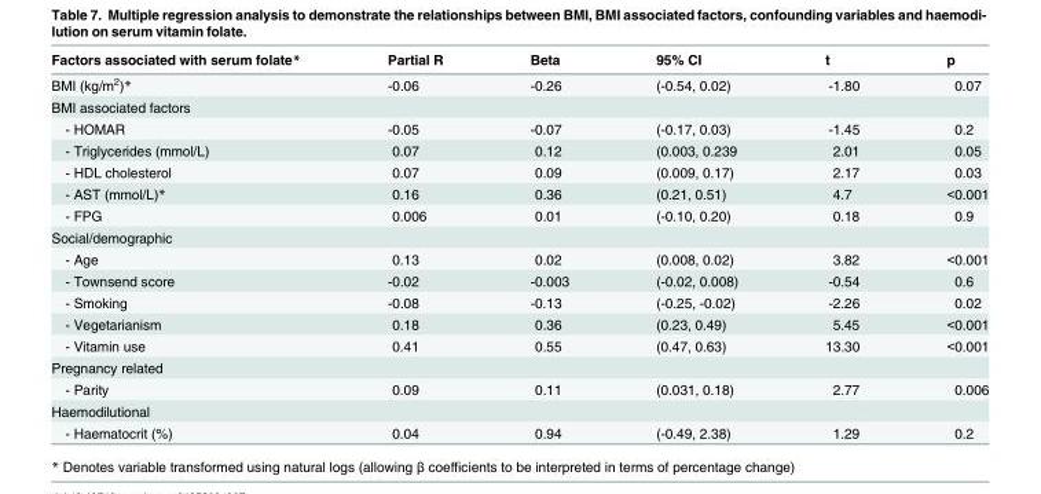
<table><thead><tr><td>Factors associated with serum folate*</td><td>Partial R</td><td>Beta</td><td>95% CI</td><td>t</td><td>p</td></tr></thead><tbody><tr><td>BMI (kg/m<sup>2</sup>)*</td><td>-0.06</td><td>-0.26</td><td>(-0.54, 0.02)</td><td>-1.80</td><td>0.07</td></tr><tr><td colspan="6">BMI associated factors</td></tr><tr><td>- HOMAR</td><td>-0.05</td><td>-0.07</td><td>(-0.17, 0.03)</td><td>-1.45</td><td>0.2</td></tr><tr><td>- Triglycerides (mmol/L)</td><td>0.07</td><td>0.12</td><td>(0.003, 0.239</td><td>2.01</td><td>0.05</td></tr><tr><td>- HDL cholesterol</td><td>0.07</td><td>0.09</td><td>(0.009, 0.17)</td><td>2.17</td><td>0.03</td></tr><tr><td>- AST (mmol/L)*</td><td>0.16</td><td>0.36</td><td>(0.21, 0.51)</td><td>4.7</td><td>&lt;0.001</td></tr><tr><td>- FPG</td><td>0.006</td><td>0.01</td><td>(-0.10, 0.20)</td><td>0.18</td><td>0.9</td></tr><tr><td colspan="6">Social/demographic</td></tr><tr><td>- Age</td><td>0.13</td><td>0.02</td><td>(0.008, 0.02)</td><td>3.82</td><td>&lt;0.001</td></tr><tr><td>- Townsend score</td><td>-0.02</td><td>-0.003</td><td>(-0.02, 0.008)</td><td>-0.54</td><td>0.6</td></tr><tr><td>- Smoking</td><td>-0.08</td><td>-0.13</td><td>(-0.25, -0.02)</td><td>-2.26</td><td>0.02</td></tr><tr><td>- Vegetarianism</td><td>0.18</td><td>0.36</td><td>(0.23, 0.49)</td><td>5.45</td><td>&lt;0.001</td></tr><tr><td>- Vitamin use</td><td>0.41</td><td>0.55</td><td>(0.47, 0.63)</td><td>13.30</td><td>&lt;0.001</td></tr><tr><td colspan="6">Pregnancy related</td></tr><tr><td>- Parity</td><td>0.09</td><td>0.11</td><td>(0.031, 0.18)</td><td>2.77</td><td>0.006</td></tr><tr><td colspan="6">Haemodilutional</td></tr><tr><td>- Haematocrit (%)</td><td>0.04</td><td>0.94</td><td>(-0.49, 2.38)</td><td>1.29</td><td>0.2</td></tr></tbody></table>